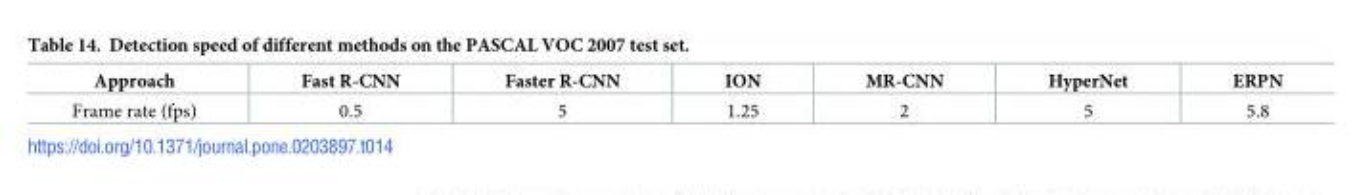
<table><thead><tr><td>Approach</td><td>Fast R-CNN</td><td>Faster R-CNN</td><td>ION</td><td>MR-CNN</td><td>HyperNet</td><td>ERPN</td></tr></thead><tbody><tr><td>Frame rate (fps)</td><td>0.5</td><td>5</td><td>1.25</td><td>2</td><td>5</td><td>5.8</td></tr></tbody></table>